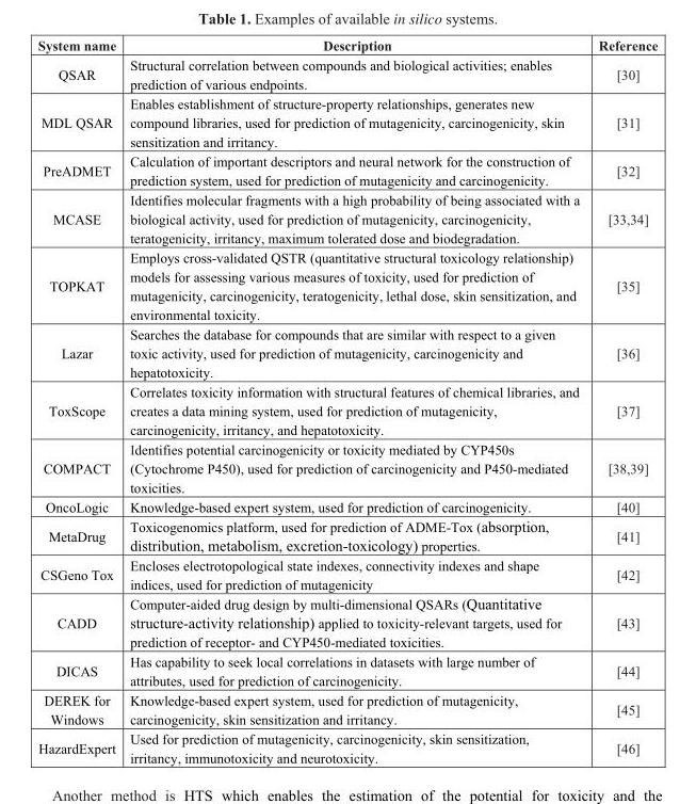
<table><thead><tr><td>System name</td><td>Description</td><td>Reference</td></tr></thead><tbody><tr><td>QSAR</td><td>Structural correlation between compounds and biological activities; enables prediction of various endpoints.</td><td>[30]</td></tr><tr><td>MDL QSAR</td><td>Enables establishment of structure-property relationships, generates new compound libraries, used for prediction of mutagenicity, carcinogenicity, skin sensitization and irritancy.</td><td>[31]</td></tr><tr><td>PreADMET</td><td>Calculation of important descriptors and neural network for the construction of prediction system, used for prediction of mutagenicity and carcinogenicity.</td><td>[32]</td></tr><tr><td>MCASE</td><td>Identifies molecular fragments with a high probability of being associated with a biological activity, used for prediction of mutagenicity, carcinogenicity, teratogenicity, irritancy, maximum tolerated dose and biodegradation.</td><td>[33,34]</td></tr><tr><td>TOPKAT</td><td>Employs cross-validated QSTR (quantitative structural toxicology relationship) models for assessing various measures of toxicity, used for prediction of mutagenicity, carcinogenicity, teratogenicity, lethal dose, skin sensitization, and environmental toxicity.</td><td>[35]</td></tr><tr><td>Lazar</td><td>Searches the database for compounds that are similar with respect to a given toxic activity, used for prediction of mutagenicity, carcinogenicity and hepatotoxicity.</td><td>[36]</td></tr><tr><td>ToxScope</td><td>Correlates toxicity information with structural features of chemical libraries, and creates a data mining system, used for prediction of mutagenicity, carcinogenicity, irritancy, and hepatotoxicity.</td><td>[37]</td></tr><tr><td>COMPACT</td><td>Identifies potential carcinogenicity or toxicity mediated by CYP450s (Cytochrome P450), used for prediction of carcinogenicity and P450-mediated toxicities.</td><td>[38,39]</td></tr><tr><td>OncoLogic</td><td>Knowledge-based expert system, used for prediction of carcinogenicity.</td><td>[40]</td></tr><tr><td>MetaDrug</td><td>Toxicogenomics platform, used for prediction of ADME-Tox (absorption, distribution, metabolism, excretion-toxicology) properties.</td><td>[41]</td></tr><tr><td>CSGeno Tox</td><td>Encloses electrotopological state indexes, connectivity indexes and shape indices, used for prediction of mutagenicity</td><td>[42]</td></tr><tr><td>CADD</td><td>Computer-aided drug design by multi-dimensional QSARs (Quantitative structure-activity relationship) applied to toxicity-relevant targets, used for prediction of receptor- and CYP450-mediated toxicities.</td><td>[43]</td></tr><tr><td>DICAS</td><td>Has capability to seek local correlations in datasets with large number of attributes, used for prediction of carcinogenicity.</td><td>[44]</td></tr><tr><td>DEREK for Windows</td><td>Knowledge-based expert system, used for prediction of mutagenicity, carcinogenicity, skin sensitization and irritancy.</td><td>[45]</td></tr><tr><td>HazardExpert</td><td>Used for prediction of mutagenicity, carcinogenicity, skin sensitization, irritancy, immunotoxicity and neurotoxicity.</td><td>[46]</td></tr></tbody></table>